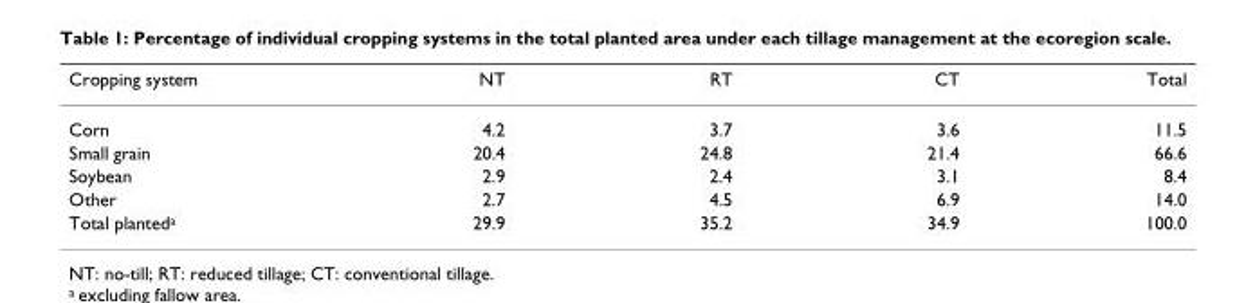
<table><thead><tr><td>Cropping system</td><td>NT</td><td>RT</td><td>CT</td><td>Total</td></tr></thead><tbody><tr><td>Corn</td><td>4.2</td><td>3.7</td><td>3.6</td><td>11.5</td></tr><tr><td>Small grain</td><td>20.4</td><td>24.8</td><td>21.4</td><td>66.6</td></tr><tr><td>Soybean</td><td>2.9</td><td>2.4</td><td>3.1</td><td>8.4</td></tr><tr><td>Other</td><td>2.7</td><td>4.5</td><td>6.9</td><td>14.0</td></tr><tr><td>Total planted<sup>a</sup></td><td>29.9</td><td>35.2</td><td>34.9</td><td>100.0</td></tr></tbody></table>